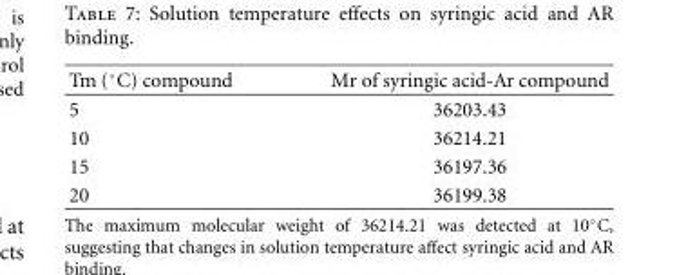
<table><thead><tr><td>Tm (◦C) compound</td><td>Mr of syringic acid-Ar compound</td></tr></thead><tbody><tr><td>5</td><td>36203.43</td></tr><tr><td>10</td><td>36214.21</td></tr><tr><td>15</td><td>36197.36</td></tr><tr><td>20</td><td>36199.38</td></tr></tbody></table>